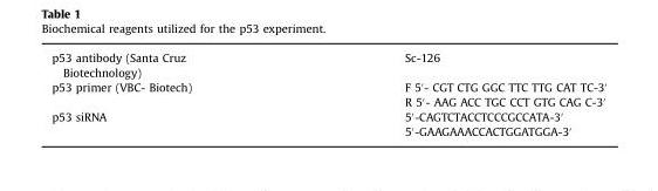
<table><tbody><tr><td>p53 antibody (Santa Cruz Biotechnology)</td><td>Sc-126</td></tr><tr><td rowspan="2">p53 primer (VBC- Biotech)</td><td>F 5′- CGT CTG GGC TTC TTG CAT TC-3′</td></tr><tr><td>R 5′- AAG ACC TGC CCT GTG CAG C-3′</td></tr><tr><td rowspan="2">p53 siRNA</td><td>5′-CAGTCTACCTCCCGCCATA-3′</td></tr><tr><td>5′-GAAGAAACCACTGGATGGA-3′</td></tr></tbody></table>